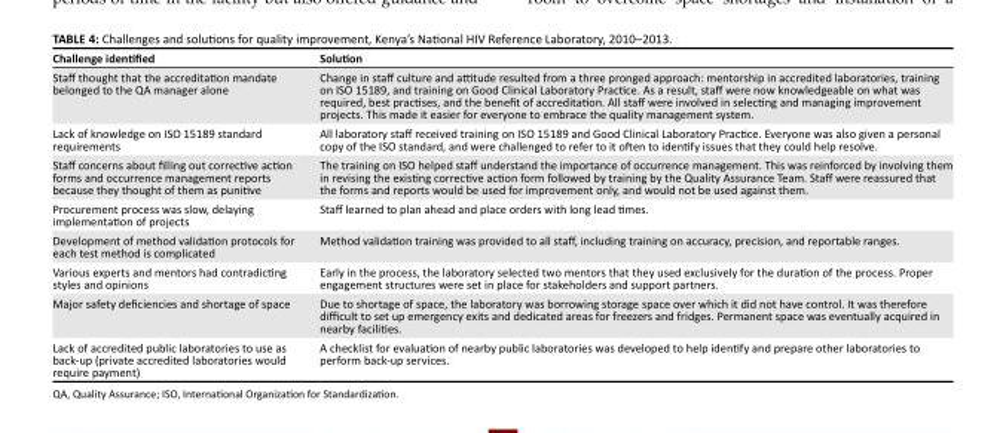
<table><thead><tr><td>Challenge identified</td><td>Solution</td></tr></thead><tbody><tr><td>Staff thought that the accreditation mandate belonged to the QA manager alone</td><td>Change in staff culture and attitude resulted from a three pronged approach: mentorship in accredited laboratories, training on ISO 15189, and training on Good Clinical Laboratory Practice. As a result, staff were now knowledgeable on what was required, best practises, and the benefit of accreditation. All staff were involved in selecting and managing improvement projects. This made it easier for everyone to embrace the quality management system.</td></tr><tr><td>Lack of knowledge on ISO 15189 standard requirements</td><td>All laboratory staff received training on ISO 15189 and Good Clinical Laboratory Practice. Everyone was also given a personal copy of the ISO standard, and were challenged to refer to it often to identify issues that they could help resolve.</td></tr><tr><td>Staff concerns about filling out corrective action forms and occurrence management reports because they thought of them as punitive</td><td>The training on ISO helped staff understand the importance of occurrence management. This was reinforced by involving them in revising the existing corrective action form followed by training by the Quality Assurance Team. Staff were reassured that the forms and reports would be used for improvement only, and would not be used against them.</td></tr><tr><td>Procurement process was slow, delaying implementation of projects</td><td>Staff learned to plan ahead and place orders with long lead times.</td></tr><tr><td>Development of method validation protocols for each test method is complicated</td><td>Method validation training was provided to all staff, including training on accuracy, precision, and reportable ranges.</td></tr><tr><td>Various experts and mentors had contradicting styles and opinions</td><td>Early in the process, the laboratory selected two mentors that they used exclusively for the duration of the process. Proper engagement structures were set in place for stakeholders and support partners.</td></tr><tr><td>Major safety deficiencies and shortage of space</td><td>Due to shortage of space, the laboratory was borrowing storage space over which it did not have control. It was therefore difficult to set up emergency exits and dedicated areas for freezers and fridges. Permanent space was eventually acquired in nearby facilities.</td></tr><tr><td>Lack of accredited public laboratories to use as back-up (private accredited laboratories would require payment)</td><td>A checklist for evaluation of nearby public laboratories was developed to help identify and prepare other laboratories to perform back-up services.</td></tr></tbody></table>